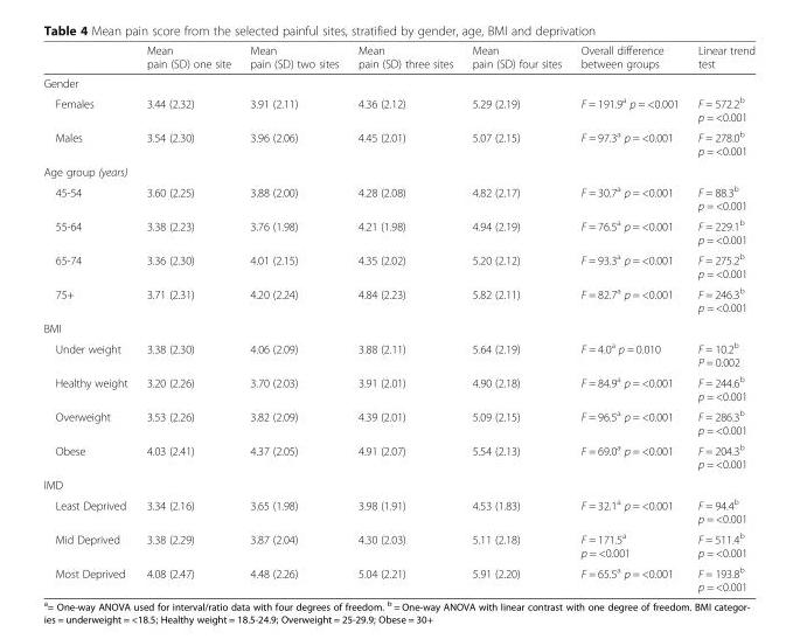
<table><thead><tr><td></td><td>Mean pain (SD) one site</td><td>Mean pain (SD) two sites</td><td>Mean pain (SD) three sites</td><td>Mean pain (SD) four sites</td><td>Overall difference between groups</td><td>Linear trend test</td></tr></thead><tbody><tr><td colspan="7">Gender</td></tr><tr><td>Females</td><td>3.44 (2.32)</td><td>3.91 (2.11)</td><td>4.36 (2.12)</td><td>5.29 (2.19)</td><td>F = 191.9<sup>a</sup> p = &lt;0.001</td><td>F = 572.2<sup>b</sup> p = &lt;0.001</td></tr><tr><td>Males</td><td>3.54 (2.30)</td><td>3.96 (2.06)</td><td>4.45 (2.01)</td><td>5.07 (2.15)</td><td>F = 97.3<sup>a</sup> p = &lt;0.001</td><td>F = 278.0<sup>b</sup> p = &lt;0.001</td></tr><tr><td colspan="7">Age group (years)</td></tr><tr><td>45-54</td><td>3.60 (2.25)</td><td>3.88 (2.00)</td><td>4.28 (2.08)</td><td>4.82 (2.17)</td><td>F = 30.7<sup>a</sup> p = &lt;0.001</td><td>F = 88.3<sup>b</sup> p = &lt;0.001</td></tr><tr><td>55-64</td><td>3.38 (2.23)</td><td>3.76 (1.98)</td><td>4.21 (1.98)</td><td>4.94 (2.19)</td><td>F = 76.5<sup>a</sup> p = &lt;0.001</td><td>F = 229.1<sup>b</sup> p = &lt;0.001</td></tr><tr><td>65-74</td><td>3.36 (2.30)</td><td>4.01 (2.15)</td><td>4.35 (2.02)</td><td>5.20 (2.12)</td><td>F = 93.3<sup>a</sup> p = &lt;0.001</td><td>F = 275.2<sup>b</sup> p = &lt;0.001</td></tr><tr><td>75+</td><td>3.71 (2.31)</td><td>4.20 (2.24)</td><td>4.84 (2.23)</td><td>5.82 (2.11)</td><td>F = 82.7<sup>a</sup> p = &lt;0.001</td><td>F = 246.3<sup>b</sup> p = &lt;0.001</td></tr><tr><td colspan="7">BMI</td></tr><tr><td>Under weight</td><td>3.38 (2.30)</td><td>4.06 (2.09)</td><td>3.88 (2.11)</td><td>5.64 (2.19)</td><td>F = 4.0<sup>a</sup> p = 0.010</td><td>F = 10.2<sup>b</sup> P = 0.002</td></tr><tr><td>Healthy weight</td><td>3.20 (2.26)</td><td>3.70 (2.03)</td><td>3.91 (2.01)</td><td>4.90 (2.18)</td><td>F = 84.9<sup>a</sup> p = &lt;0.001</td><td>F = 244.6<sup>b</sup> p = &lt;0.001</td></tr><tr><td>Overweight</td><td>3.53 (2.26)</td><td>3.82 (2.09)</td><td>4.39 (2.01)</td><td>5.09 (2.15)</td><td>F = 96.5<sup>a</sup> p = &lt;0.001</td><td>F = 286.3<sup>b</sup> p = &lt;0.001</td></tr><tr><td>Obese</td><td>4.03 (2.41)</td><td>4.37 (2.05)</td><td>4.91 (2.07)</td><td>5.54 (2.13)</td><td>F = 69.0<sup>a</sup> p = &lt;0.001</td><td>F = 204.3<sup>b</sup> p = &lt;0.001</td></tr><tr><td colspan="7">IMD</td></tr><tr><td>Least Deprived</td><td>3.34 (2.16)</td><td>3.65 (1.98)</td><td>3.98 (1.91)</td><td>4.53 (1.83)</td><td>F = 32.1<sup>a</sup> p = &lt;0.001</td><td>F = 94.4<sup>b</sup> p = &lt;0.001</td></tr><tr><td>Mid Deprived</td><td>3.38 (2.29)</td><td>3.87 (2.04)</td><td>4.30 (2.03)</td><td>5.11 (2.18)</td><td>F = 171.5<sup>a</sup> p = &lt;0.001</td><td>F = 511.4<sup>b</sup> p = &lt;0.001</td></tr><tr><td>Most Deprived</td><td>4.08 (2.47)</td><td>4.48 (2.26)</td><td>5.04 (2.21)</td><td>5.91 (2.20)</td><td>F = 65.5<sup>a</sup> p = &lt;0.001</td><td>F = 193.8<sup>b</sup> p = &lt;0.001</td></tr></tbody></table>